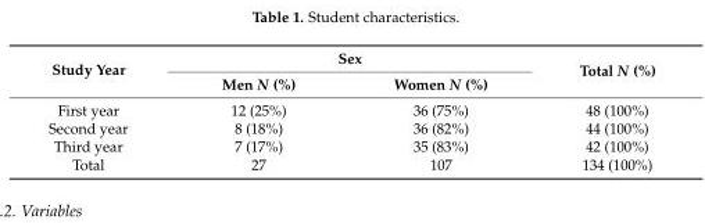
<table><thead><tr><td rowspan="2">Study Year</td><td colspan="2">Sex</td><td rowspan="2">Total N (%)</td></tr><tr><td>Men N (%)</td><td>Women N (%)</td></tr></thead><tbody><tr><td>First year</td><td>12 (25%)</td><td>36 (75%)</td><td>48 (100%)</td></tr><tr><td>Second year</td><td>8 (18%)</td><td>36 (82%)</td><td>44 (100%)</td></tr><tr><td>Third year</td><td>7 (17%)</td><td>35 (83%)</td><td>42 (100%)</td></tr><tr><td>Total</td><td>27</td><td>107</td><td>134 (100%)</td></tr></tbody></table>